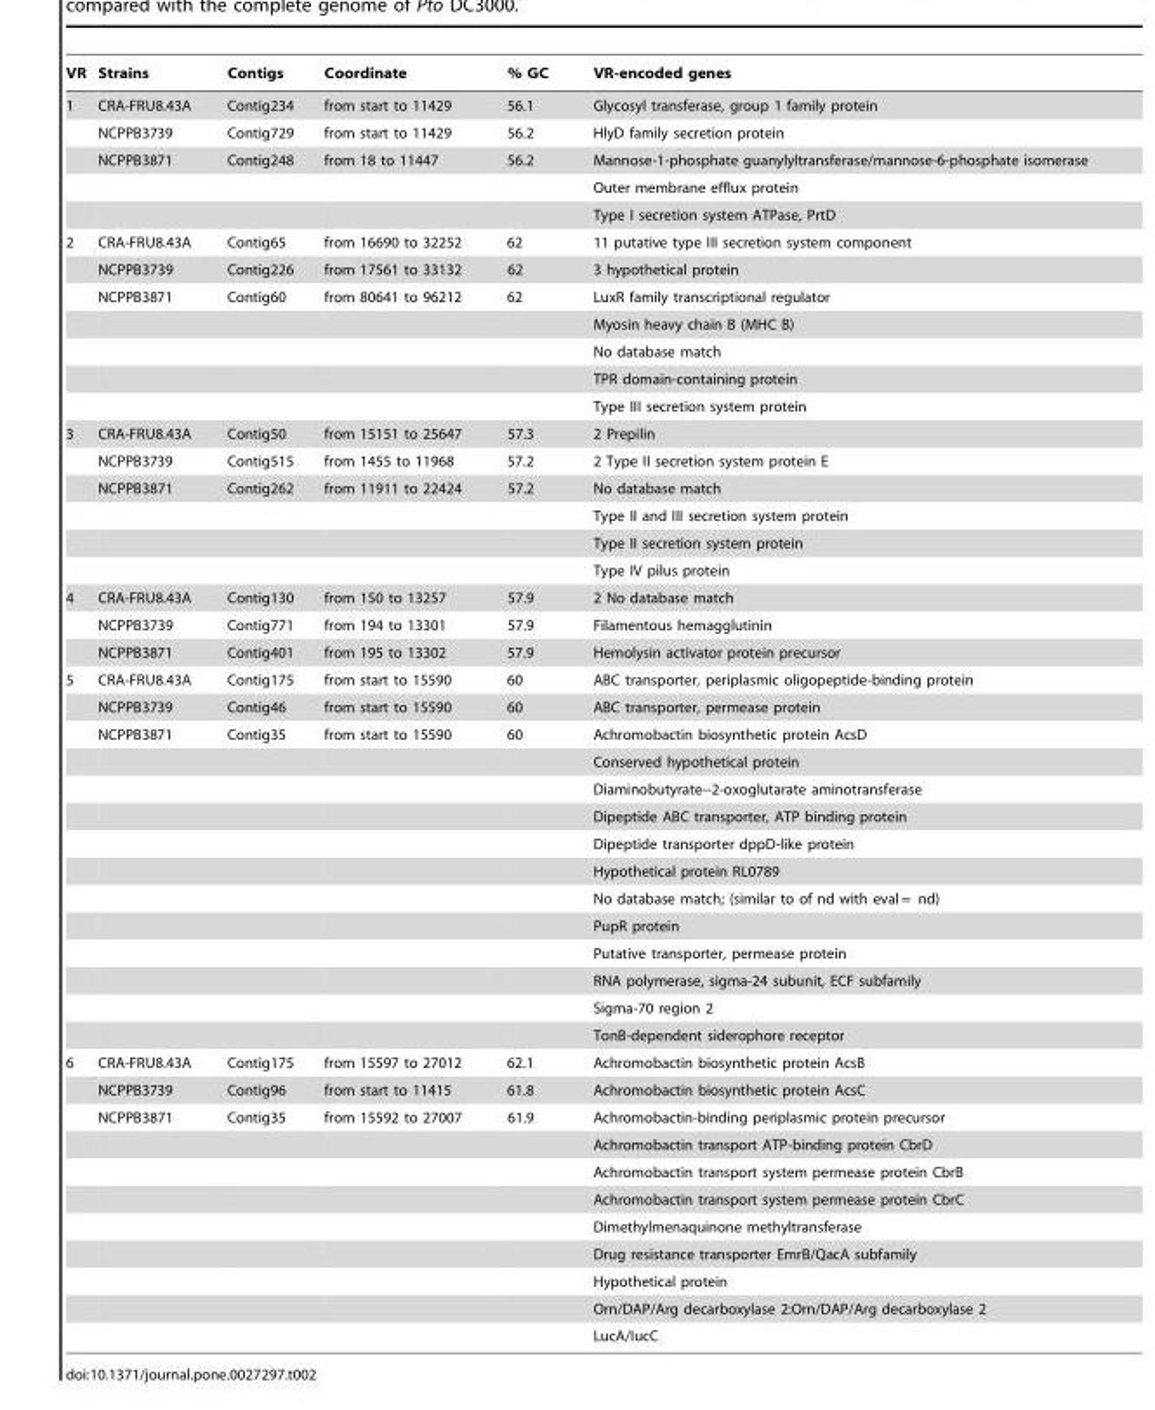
<table><thead><tr><td>VR</td><td>Strains</td><td>Contigs</td><td>Coordinate</td><td>% GC</td><td>VR-encoded genes</td></tr></thead><tbody><tr><td rowspan="5">1</td><td>CRA-FRU8.43A</td><td>Contig234</td><td>from start to 11429</td><td>56.1</td><td>Glycosyl transferase, group 1 family protein</td></tr><tr><td>NCPPB3739</td><td>Contig729</td><td>from start to 11429</td><td>56.2</td><td>HlyD family secretion protein</td></tr><tr><td>NCPPB3871</td><td>Contig248</td><td>from 18 to 11447</td><td>56.2</td><td>Mannose-1-phosphate guanylyltransferase/mannose-6-phosphate isomerase</td></tr><tr><td></td><td></td><td></td><td></td><td>Outer membrane efflux protein</td></tr><tr><td></td><td></td><td></td><td></td><td>Type I secretion system ATPase, PrtD</td></tr><tr><td rowspan="7">2</td><td>CRA-FRU8.43A</td><td>Contig65</td><td>from 16690 to 32252</td><td>62</td><td>11 putative type III secretion system component</td></tr><tr><td>NCPPB3739</td><td>Contig226</td><td>from 17561 to 33132</td><td>62</td><td>3 hypothetical protein</td></tr><tr><td>NCPPB3871</td><td>Contig60</td><td>from 80641 to 96212</td><td>62</td><td>LuxR family transcriptional regulator</td></tr><tr><td></td><td></td><td></td><td></td><td>Myosin heavy chain B (MHC B)</td></tr><tr><td></td><td></td><td></td><td></td><td>No database match</td></tr><tr><td></td><td></td><td></td><td></td><td>TPR domain-containing protein</td></tr><tr><td></td><td></td><td></td><td></td><td>Type III secretion system protein</td></tr><tr><td rowspan="6">3</td><td>CRA-FRU8.43A</td><td>Contig50</td><td>from 15151 to 25647</td><td>57.3</td><td>2 Prepilin</td></tr><tr><td>NCPPB3739</td><td>Contig515</td><td>from 1455 to 11968</td><td>57.2</td><td>2 Type II secretion system protein E</td></tr><tr><td>NCPPB3871</td><td>Contig262</td><td>from 11911 to 22424</td><td>57.2</td><td>No database match</td></tr><tr><td></td><td></td><td></td><td></td><td>Type II and III secretion system protein</td></tr><tr><td></td><td></td><td></td><td></td><td>Type II secretion system protein</td></tr><tr><td></td><td></td><td></td><td></td><td>Type IV pilus protein</td></tr><tr><td rowspan="3">4</td><td>CRA-FRU8.43A</td><td>Contig130</td><td>from 150 to 13257</td><td>57.9</td><td>2 No database match</td></tr><tr><td>NCPPB3739</td><td>Contig771</td><td>from 194 to 13301</td><td>57.9</td><td>Filamentous hemagglutinin</td></tr><tr><td>NCPPB3871</td><td>Contig401</td><td>from 195 to 13302</td><td>57.9</td><td>Hemolysin activator protein precursor</td></tr><tr><td rowspan="14">5</td><td>CRA-FRU8.43A</td><td>Contig175</td><td>from start to 15590</td><td>60</td><td>ABC transporter, periplasmic oligopeptide-binding protein</td></tr><tr><td>NCPPB3739</td><td>Contig46</td><td>from start to 15590</td><td>60</td><td>ABC transporter, permease protein</td></tr><tr><td>NCPPB3871</td><td>Contig35</td><td>from start to 15590</td><td>60</td><td>Achromobactin biosynthetic protein AcsD</td></tr><tr><td></td><td></td><td></td><td></td><td>Conserved hypothetical protein</td></tr><tr><td></td><td></td><td></td><td></td><td>Diaminobutyrate--2-oxoglutarate aminotransferase</td></tr><tr><td></td><td></td><td></td><td></td><td>Dipeptide ABC transporter, ATP binding protein</td></tr><tr><td></td><td></td><td></td><td></td><td>Dipeptide transporter dppD-like protein</td></tr><tr><td></td><td></td><td></td><td></td><td>Hypothetical protein RL0789</td></tr><tr><td></td><td></td><td></td><td></td><td>No database match; (similar to of nd with eval = nd)</td></tr><tr><td></td><td></td><td></td><td></td><td>PupR protein</td></tr><tr><td></td><td></td><td></td><td></td><td>Putative transporter, permease protein</td></tr><tr><td></td><td></td><td></td><td></td><td>RNA polymerase, sigma-24 subunit, ECF subfamily</td></tr><tr><td></td><td></td><td></td><td></td><td>Sigma-70 region 2</td></tr><tr><td></td><td></td><td></td><td></td><td>TonB-dependent siderophore receptor</td></tr><tr><td rowspan="11">6</td><td>CRA-FRU8.43A</td><td>Contig175</td><td>from 15597 to 27012</td><td>62.1</td><td>Achromobactin biosynthetic protein AcsB</td></tr><tr><td>NCPPB3739</td><td>Contig96</td><td>from start to 11415</td><td>61.8</td><td>Achromobactin biosynthetic protein AcsC</td></tr><tr><td>NCPPB3871</td><td>Contig35</td><td>from 15592 to 27007</td><td>61.9</td><td>Achromobactin-binding periplasmic protein precursor</td></tr><tr><td></td><td></td><td></td><td></td><td>Achromobactin transport ATP-binding protein CbrD</td></tr><tr><td></td><td></td><td></td><td></td><td>Achromobactin transport system permease protein CbrB</td></tr><tr><td></td><td></td><td></td><td></td><td>Achromobactin transport system permease protein CbrC</td></tr><tr><td></td><td></td><td></td><td></td><td>Dimethylmenaquinone methyltransferase</td></tr><tr><td></td><td></td><td></td><td></td><td>Drug resistance transporter EmrB/QacA subfamily</td></tr><tr><td></td><td></td><td></td><td></td><td>Hypothetical protein</td></tr><tr><td></td><td></td><td></td><td></td><td>Orn/DAP/Arg decarboxylase 2:Orn/DAP/Arg decarboxylase 2</td></tr><tr><td></td><td></td><td></td><td></td><td>LucA/IucC</td></tr></tbody></table>